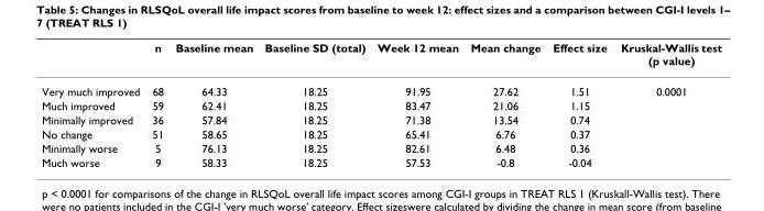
<table><thead><tr><td></td><td>n</td><td>Baseline mean</td><td>Baseline SD (total)</td><td>Week 12 mean</td><td>Mean change</td><td>Effect size</td><td>Kruskal-Wallis test (p value)</td></tr></thead><tbody><tr><td>Very much improved</td><td>68</td><td>64.33</td><td>18.25</td><td>91.95</td><td>27.62</td><td>1.51</td><td>0.0001</td></tr><tr><td>Much improved</td><td>59</td><td>62.41</td><td>18.25</td><td>83.47</td><td>21.06</td><td>1.15</td><td></td></tr><tr><td>Minimally improved</td><td>36</td><td>57.84</td><td>18.25</td><td>71.38</td><td>13.54</td><td>0.74</td><td></td></tr><tr><td>No change</td><td>51</td><td>58.65</td><td>18.25</td><td>65.41</td><td>6.76</td><td>0.37</td><td></td></tr><tr><td>Minimally worse</td><td>5</td><td>76.13</td><td>18.25</td><td>82.61</td><td>6.48</td><td>0.36</td><td></td></tr><tr><td>Much worse</td><td>9</td><td>58.33</td><td>18.25</td><td>57.53</td><td>-0.8</td><td>-0.04</td><td></td></tr></tbody></table>